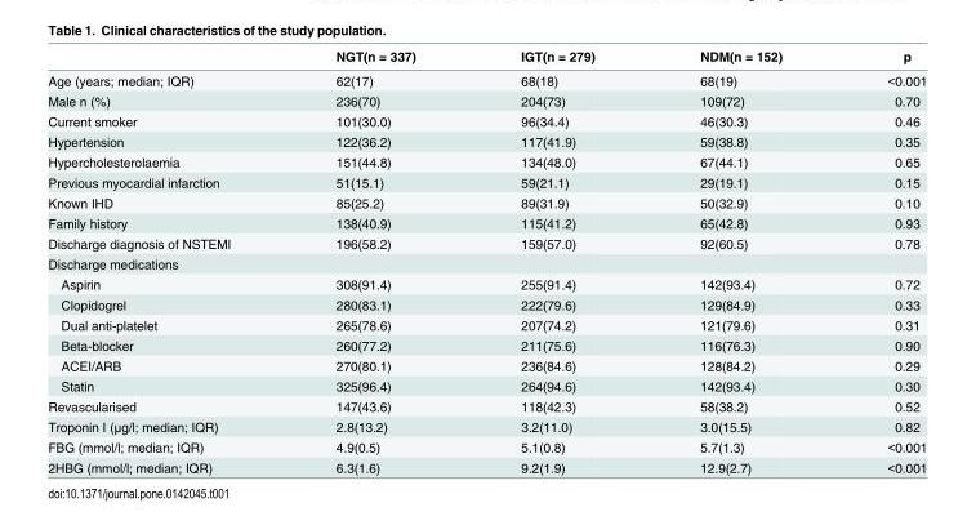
<table><thead><tr><td></td><td>NGT(n = 337)</td><td>IGT(n = 279)</td><td>NDM(n = 152)</td><td>p</td></tr></thead><tbody><tr><td>Age (years; median; IQR)</td><td>62(17)</td><td>68(18)</td><td>68(19)</td><td>&lt;0.001</td></tr><tr><td>Male n (%)</td><td>236(70)</td><td>204(73)</td><td>109(72)</td><td>0.70</td></tr><tr><td>Current smoker</td><td>101(30.0)</td><td>96(34.4)</td><td>46(30.3)</td><td>0.46</td></tr><tr><td>Hypertension</td><td>122(36.2)</td><td>117(41.9)</td><td>59(38.8)</td><td>0.35</td></tr><tr><td>Hypercholesterolaemia</td><td>151(44.8)</td><td>134(48.0)</td><td>67(44.1)</td><td>0.65</td></tr><tr><td>Previous myocardial infarction</td><td>51(15.1)</td><td>59(21.1)</td><td>29(19.1)</td><td>0.15</td></tr><tr><td>Known IHD</td><td>85(25.2)</td><td>89(31.9)</td><td>50(32.9)</td><td>0.10</td></tr><tr><td>Family history</td><td>138(40.9)</td><td>115(41.2)</td><td>65(42.8)</td><td>0.93</td></tr><tr><td>Discharge diagnosis of NSTEMI</td><td>196(58.2)</td><td>159(57.0)</td><td>92(60.5)</td><td>0.78</td></tr><tr><td colspan="5">Discharge medications</td></tr><tr><td>Aspirin</td><td>308(91.4)</td><td>255(91.4)</td><td>142(93.4)</td><td>0.72</td></tr><tr><td>Clopidogrel</td><td>280(83.1)</td><td>222(79.6)</td><td>129(84.9)</td><td>0.33</td></tr><tr><td>Dual anti-platelet</td><td>265(78.6)</td><td>207(74.2)</td><td>121(79.6)</td><td>0.31</td></tr><tr><td>Beta-blocker</td><td>260(77.2)</td><td>211(75.6)</td><td>116(76.3)</td><td>0.90</td></tr><tr><td>ACEI/ARB</td><td>270(80.1)</td><td>236(84.6)</td><td>128(84.2)</td><td>0.29</td></tr><tr><td>Statin</td><td>325(96.4)</td><td>264(94.6)</td><td>142(93.4)</td><td>0.30</td></tr><tr><td>Revascularised</td><td>147(43.6)</td><td>118(42.3)</td><td>58(38.2)</td><td>0.52</td></tr><tr><td>Troponin I (μg/l; median; IQR)</td><td>2.8(13.2)</td><td>3.2(11.0)</td><td>3.0(15.5)</td><td>0.82</td></tr><tr><td>FBG (mmol/l; median; IQR)</td><td>4.9(0.5)</td><td>5.1(0.8)</td><td>5.7(1.3)</td><td>&lt;0.001</td></tr><tr><td>2HBG (mmol/l; median; IQR)</td><td>6.3(1.6)</td><td>9.2(1.9)</td><td>12.9(2.7)</td><td>&lt;0.001</td></tr></tbody></table>